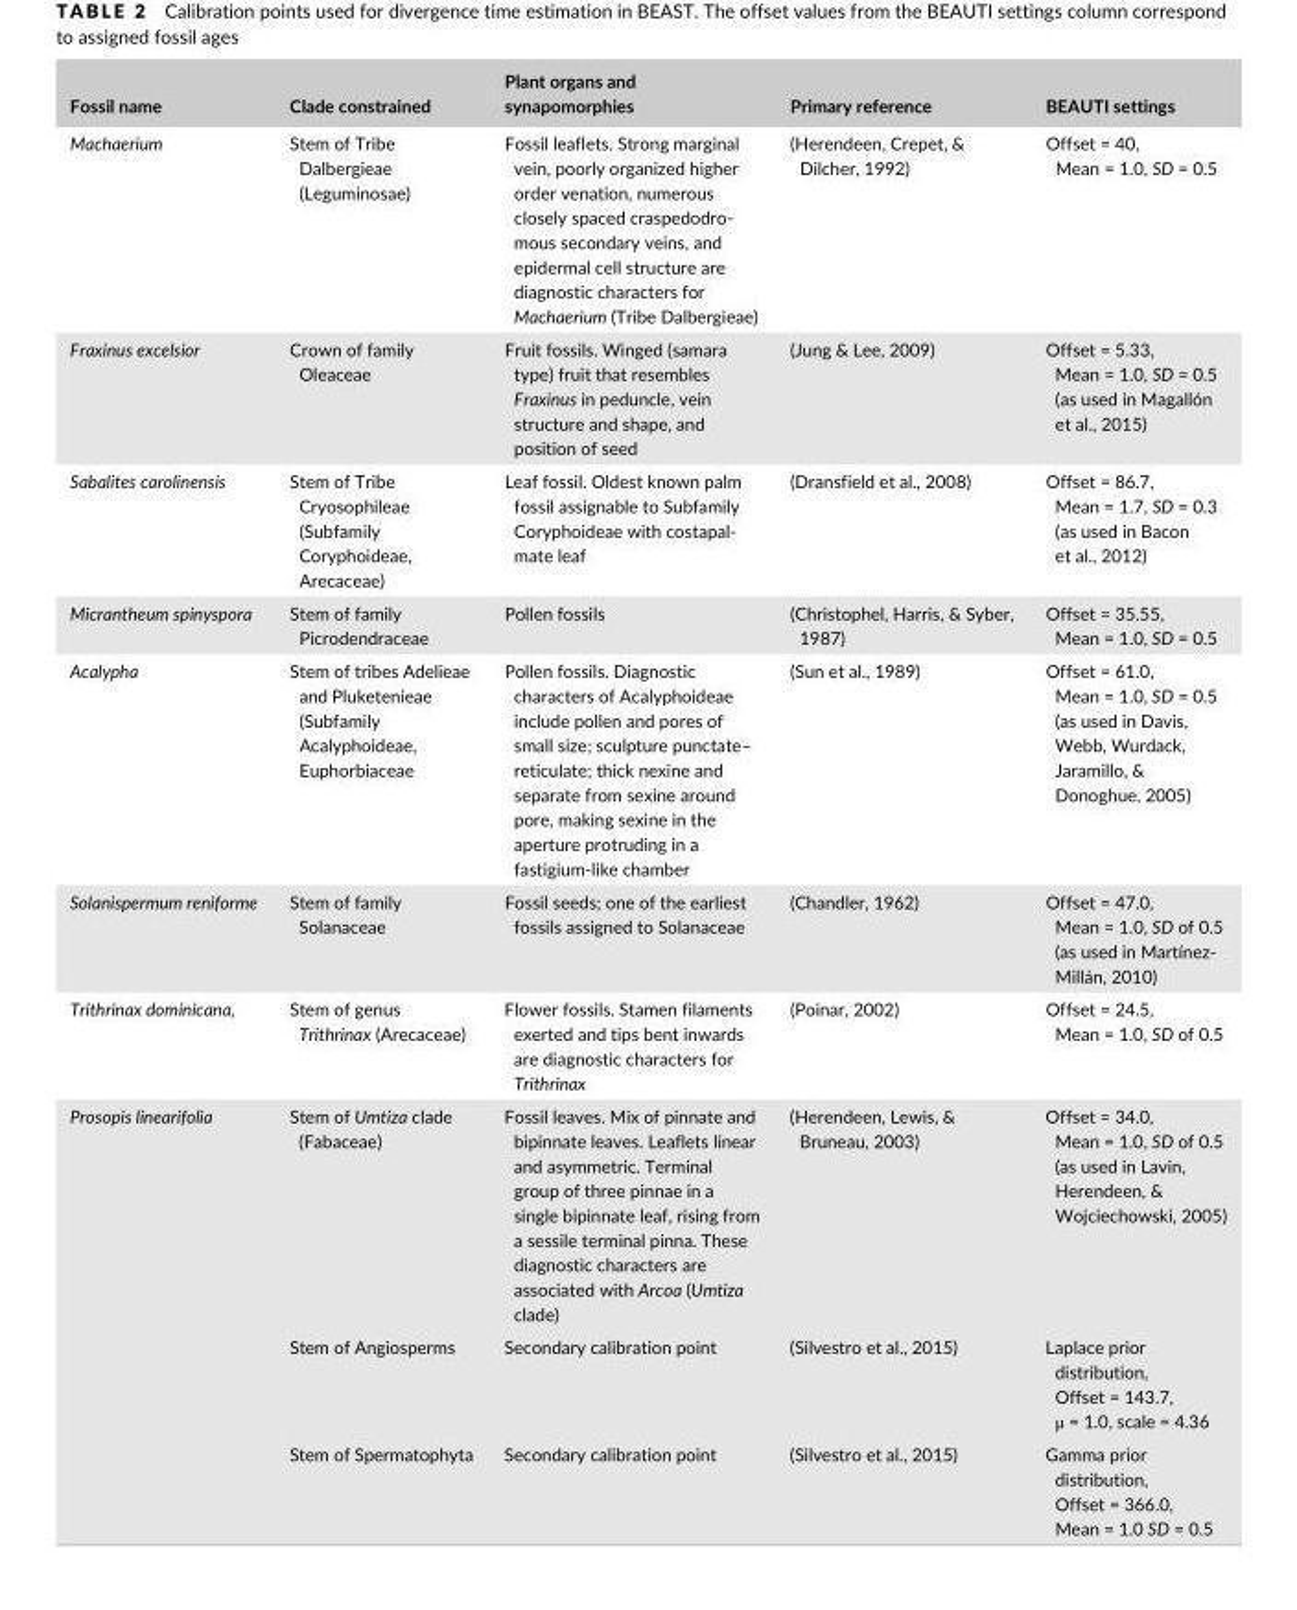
<table><thead><tr><td>Fossil name</td><td>Clade constrained</td><td>Plant organs and synapomorphies</td><td>Primary reference</td><td>BEAUTI settings</td></tr></thead><tbody><tr><td>Machaerium</td><td>Stem of Tribe Dalbergieae (Leguminosae)</td><td>Fossil leaflets. Strong marginal vein, poorly organized higher order venation, numerous closely spaced craspedodro- mous secondary veins, and epidermal cell structure are diagnostic characters for Machaerium (Tribe Dalbergieae)</td><td>(Herendeen, Crepet, &amp; Dilcher, 1992)</td><td>Offset = 40, Mean = 1.0, SD = 0.5</td></tr><tr><td>Fraxinus excelsior</td><td>Crown of family Oleaceae</td><td>Fruit fossils. Winged (samara type) fruit that resembles Fraxinus in peduncle, vein structure and shape, and position of seed</td><td>(Jung &amp; Lee, 2009)</td><td>Offset = 5.33, Mean = 1.0, SD = 0.5 (as used in Magallón et al., 2015)</td></tr><tr><td>Sabalites carolinensis</td><td>Stem of Tribe Cryosophileae (Subfamily Coryphoideae, Arecaceae)</td><td>Leaf fossil. Oldest known palm fossil assignable to Subfamily Coryphoideae with costapal- mate leaf</td><td>(Dransfield et al., 2008)</td><td>Offset = 86.7, Mean = 1.7, SD = 0.3 (as used in Bacon et al., 2012)</td></tr><tr><td>Micrantheum spinyspora</td><td>Stem of family Picrodendraceae</td><td>Pollen fossils</td><td>(Christophel, Harris, &amp; Syber, 1987)</td><td>Offset = 35.55, Mean = 1.0, SD = 0.5</td></tr><tr><td>Acalypha</td><td>Stem of tribes Adelieae and Pluketenieae (Subfamily Acalyphoideae, Euphorbiaceae</td><td>Pollen fossils. Diagnostic characters of Acalyphoideae include pollen and pores of small size; sculpture punctate– reticulate; thick nexine and separate from sexine around pore, making sexine in the aperture protruding in a fastigium- like chamber</td><td>(Sun et al., 1989)</td><td>Offset = 61.0, Mean = 1.0, SD = 0.5 (as used in Davis, Webb, Wurdack, Jaramillo, &amp; Donoghue, 2005)</td></tr><tr><td>Solanispermum reniforme</td><td>Stem of family Solanaceae</td><td>Fossil seeds; one of the earliest fossils assigned to Solanaceae</td><td>(Chandler, 1962)</td><td>Offset = 47.0, Mean = 1.0, SD of 0.5 (as used in Martínez- Millán, 2010)</td></tr><tr><td>Trithrinax dominicana,</td><td>Stem of genus Trithrinax (Arecaceae)</td><td>Flower fossils. Stamen filaments exerted and tips bent inwards are diagnostic characters for Trithrinax</td><td>(Poinar, 2002)</td><td>Offset = 24.5, Mean = 1.0, SD of 0.5</td></tr><tr><td rowspan="3">Prosopis linearifolia</td><td>Stem of Umtiza clade (Fabaceae)</td><td>Fossil leaves. Mix of pinnate and bipinnate leaves. Leaflets linear and asymmetric. Terminal group of three pinnae in a single bipinnate leaf, rising from a sessile terminal pinna. These diagnostic characters are associated with Arcoa (Umtiza clade)</td><td>(Herendeen, Lewis, &amp; Bruneau, 2003)</td><td>Offset = 34.0, Mean = 1.0, SD of 0.5 (as used in Lavin, Herendeen, &amp; Wojciechowski, 2005)</td></tr><tr><td>Stem of Angiosperms</td><td>Secondary calibration point</td><td>(Silvestro et al., 2015)</td><td>Laplace prior distribution, Offset = 143.7, μ = 1.0, scale = 4.36</td></tr><tr><td>Stem of Spermatophyta</td><td>Secondary calibration point</td><td>(Silvestro et al., 2015)</td><td>Gamma prior distribution, Offset = 366.0, Mean = 1.0 SD = 0.5</td></tr></tbody></table>